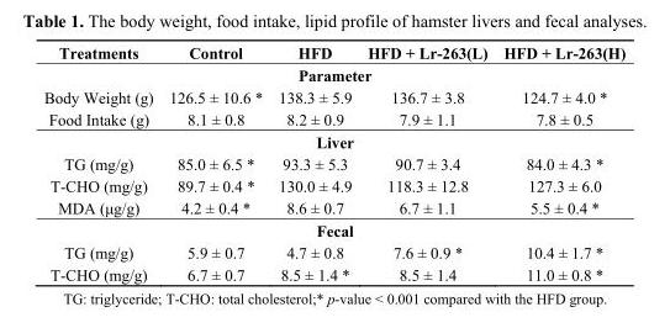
<table><thead><tr><td>Treatments</td><td>Control</td><td>HFD</td><td>HFD + Lr-263(L)</td><td>HFD + Lr-263(H)</td></tr></thead><tbody><tr><td colspan="5">Parameter</td></tr><tr><td>Body Weight (g)</td><td>126.5 ± 10.6 *</td><td>138.3 ± 5.9</td><td>136.7 ± 3.8</td><td>124.7 ± 4.0 *</td></tr><tr><td>Food Intake (g)</td><td>8.1 ± 0.8</td><td>8.2 ± 0.9</td><td>7.9 ± 1.1</td><td>7.8 ± 0.5</td></tr><tr><td colspan="5">Liver</td></tr><tr><td>TG (mg/g)</td><td>85.0 ± 6.5 *</td><td>93.3 ± 5.3</td><td>90.7 ± 3.4</td><td>84.0 ± 4.3 *</td></tr><tr><td>T-CHO (mg/g)</td><td>89.7 ± 0.4 *</td><td>130.0 ± 4.9</td><td>118.3 ± 12.8</td><td>127.3 ± 6.0</td></tr><tr><td>MDA (μg/g)</td><td>4.2 ± 0.4 *</td><td>8.6 ± 0.7</td><td>6.7 ± 1.1</td><td>5.5 ± 0.4 *</td></tr><tr><td colspan="5">Fecal</td></tr><tr><td>TG (mg/g)</td><td>5.9 ± 0.7</td><td>4.7 ± 0.8</td><td>7.6 ± 0.9 *</td><td>10.4 ± 1.7 *</td></tr><tr><td>T-CHO (mg/g)</td><td>6.7 ± 0.7</td><td>8.5 ± 1.4 *</td><td>8.5 ± 1.4</td><td>11.0 ± 0.8 *</td></tr></tbody></table>